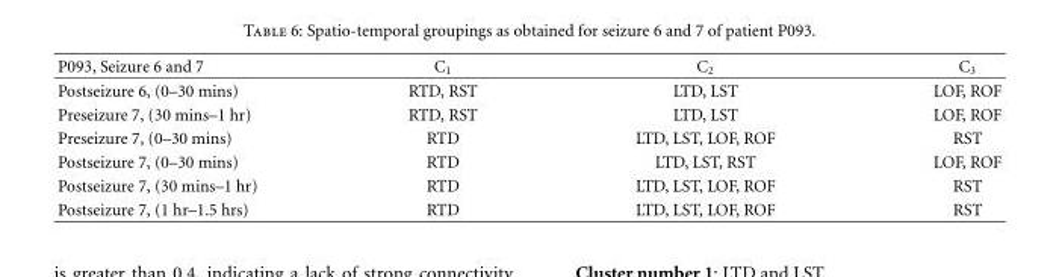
<table><thead><tr><td>P093, Seizure 6 and 7</td><td>C<sub>1</sub></td><td>C<sub>2</sub></td><td>C<sub>3</sub></td></tr></thead><tbody><tr><td>Postseizure 6, (0–30 mins)</td><td>RTD, RST</td><td>LTD, LST</td><td>LOF, ROF</td></tr><tr><td>Preseizure 7, (30 mins–1 hr)</td><td>RTD, RST</td><td>LTD, LST</td><td>LOF, ROF</td></tr><tr><td>Preseizure 7, (0–30 mins)</td><td>RTD</td><td>LTD, LST, LOF, ROF</td><td>RST</td></tr><tr><td>Postseizure 7, (0–30 mins)</td><td>RTD</td><td>LTD, LST, RST</td><td>LOF, ROF</td></tr><tr><td>Postseizure 7, (30 mins–1 hr)</td><td>RTD</td><td>LTD, LST, LOF, ROF</td><td>RST</td></tr><tr><td>Postseizure 7, (1 hr–1.5 hrs)</td><td>RTD</td><td>LTD, LST, LOF, ROF</td><td>RST</td></tr></tbody></table>